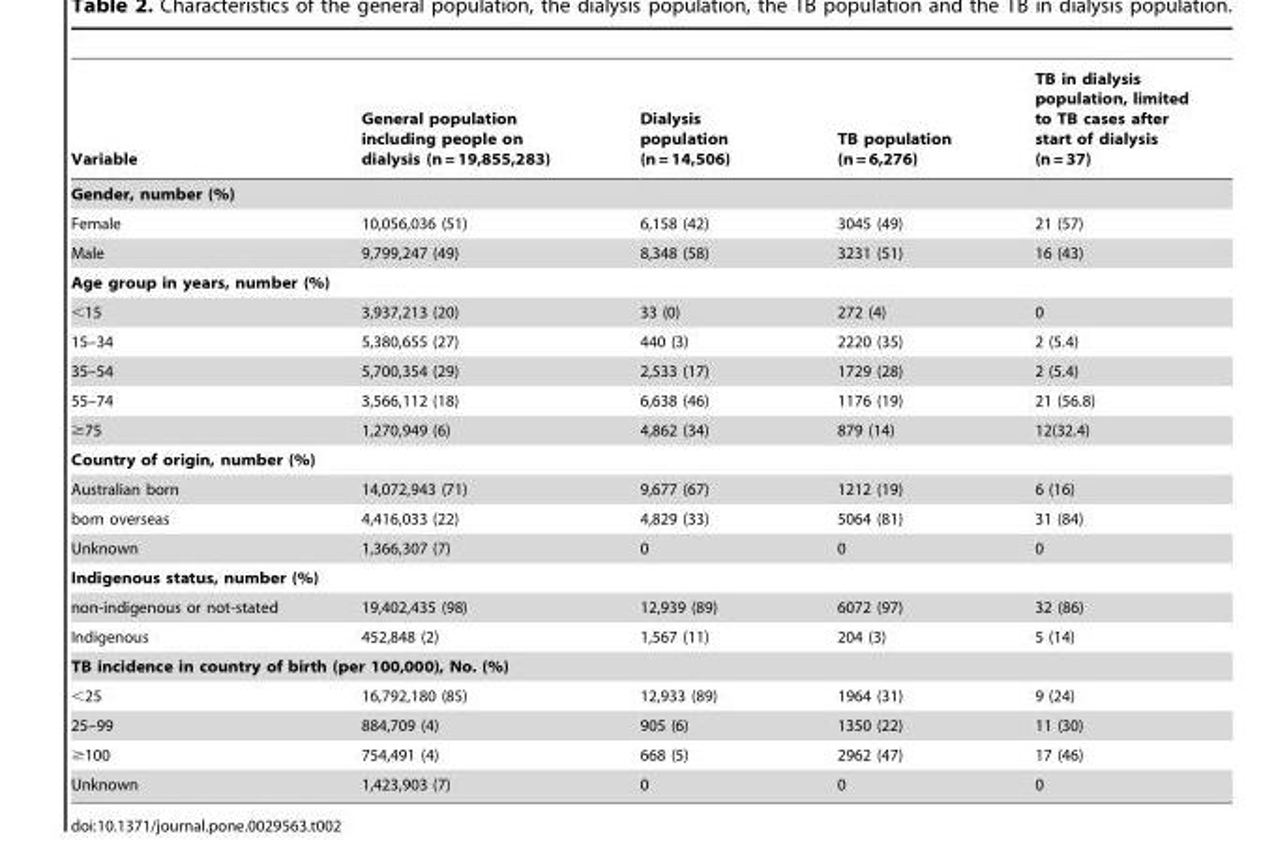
<table><thead><tr><td>Variable</td><td>General population including people on dialysis (n = 19,855,283)</td><td>Dialysis population (n = 14,506)</td><td>TB population (n = 6,276)</td><td>TB in dialysis population, limited to TB cases after start of dialysis (n = 37)</td></tr></thead><tbody><tr><td colspan="5">Gender, number (%)</td></tr><tr><td>Female</td><td>10,056,036 (51)</td><td>6,158 (42)</td><td>3045 (49)</td><td>21 (57)</td></tr><tr><td>Male</td><td>9,799,247 (49)</td><td>8,348 (58)</td><td>3231 (51)</td><td>16 (43)</td></tr><tr><td colspan="5">Age group in years, number (%)</td></tr><tr><td>&lt;15</td><td>3,937,213 (20)</td><td>33 (0)</td><td>272 (4)</td><td>0</td></tr><tr><td>15–34</td><td>5,380,655 (27)</td><td>440 (3)</td><td>2220 (35)</td><td>2 (5.4)</td></tr><tr><td>35–54</td><td>5,700,354 (29)</td><td>2,533 (17)</td><td>1729 (28)</td><td>2 (5.4)</td></tr><tr><td>55–74</td><td>3,566,112 (18)</td><td>6,638 (46)</td><td>1176 (19)</td><td>21 (56.8)</td></tr><tr><td>≥75</td><td>1,270,949 (6)</td><td>4,862 (34)</td><td>879 (14)</td><td>12(32.4)</td></tr><tr><td colspan="5">Country of origin, number (%)</td></tr><tr><td>Australian born</td><td>14,072,943 (71)</td><td>9,677 (67)</td><td>1212 (19)</td><td>6 (16)</td></tr><tr><td>born overseas</td><td>4,416,033 (22)</td><td>4,829 (33)</td><td>5064 (81)</td><td>31 (84)</td></tr><tr><td>Unknown</td><td>1,366,307 (7)</td><td>0</td><td>0</td><td>0</td></tr><tr><td colspan="5">Indigenous status, number (%)</td></tr><tr><td>non-indigenous or not-stated</td><td>19,402,435 (98)</td><td>12,939 (89)</td><td>6072 (97)</td><td>32 (86)</td></tr><tr><td>Indigenous</td><td>452,848 (2)</td><td>1,567 (11)</td><td>204 (3)</td><td>5 (14)</td></tr><tr><td colspan="5">TB incidence in country of birth (per 100,000), No. (%)</td></tr><tr><td>&lt;25</td><td>16,792,180 (85)</td><td>12,933 (89)</td><td>1964 (31)</td><td>9 (24)</td></tr><tr><td>25–99</td><td>884,709 (4)</td><td>905 (6)</td><td>1350 (22)</td><td>11 (30)</td></tr><tr><td>≥100</td><td>754,491 (4)</td><td>668 (5)</td><td>2962 (47)</td><td>17 (46)</td></tr><tr><td>Unknown</td><td>1,423,903 (7)</td><td>0</td><td>0</td><td>0</td></tr></tbody></table>